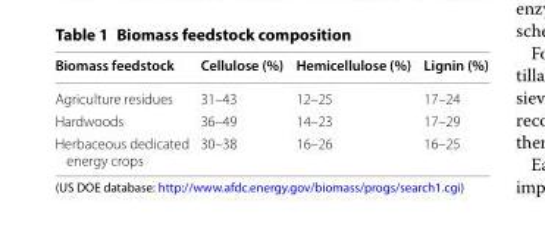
<table><thead><tr><td>Biomass feedstock</td><td>Cellulose (%)</td><td>Hemicellulose (%)</td><td>Lignin (%)</td></tr></thead><tbody><tr><td>Agriculture residues</td><td>31–43</td><td>12–25</td><td>17–24</td></tr><tr><td>Hardwoods</td><td>36–49</td><td>14–23</td><td>17–29</td></tr><tr><td>Herbaceous dedicated energy crops</td><td>30–38</td><td>16–26</td><td>16–25</td></tr></tbody></table>